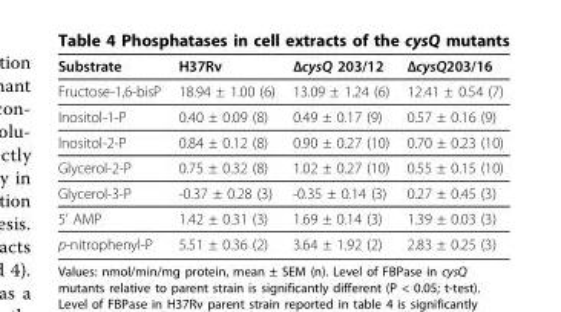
<table><thead><tr><td>Substrate</td><td>H37Rv</td><td>ΔcysQ 203/12</td><td>ΔcysQ203/16</td></tr></thead><tbody><tr><td>Fructose-1,6-bisP</td><td>18.94 ± 1.00 (6)</td><td>13.09 ± 1.24 (6)</td><td>12.41 ± 0.54 (7)</td></tr><tr><td>Inositol-1-P</td><td>0.40 ± 0.09 (8)</td><td>0.49 ± 0.17 (9)</td><td>0.57 ± 0.16 (9)</td></tr><tr><td>Inositol-2-P</td><td>0.84 ± 0.12 (8)</td><td>0.90 ± 0.27 (10)</td><td>0.70 ± 0.23 (10)</td></tr><tr><td>Glycerol-2-P</td><td>0.75 ± 0.32 (8)</td><td>1.02 ± 0.27 (10)</td><td>0.55 ± 0.15 (10)</td></tr><tr><td>Glycerol-3-P</td><td>-0.37 ± 0.28 (3)</td><td>-0.35 ± 0.14 (3)</td><td>0.27 ± 0.45 (3)</td></tr><tr><td>5’ AMP</td><td>1.42 ± 0.31 (3)</td><td>1.69 ± 0.14 (3)</td><td>1.39 ± 0.03 (3)</td></tr><tr><td>p-nitrophenyl-P</td><td>5.51 ± 0.36 (2)</td><td>3.64 ± 1.92 (2)</td><td>2.83 ± 0.25 (3)</td></tr></tbody></table>